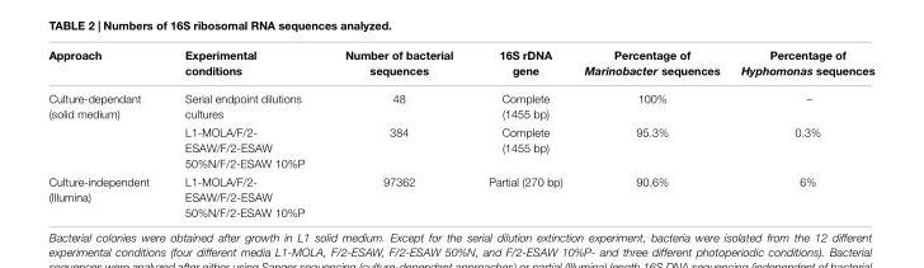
<table><thead><tr><td>Approach</td><td>Experimental conditions</td><td>Number of bacterial sequences</td><td>16S rDNA gene</td><td>Percentage of Marinobacter sequences</td><td>Percentage of Hyphomonas sequences</td></tr></thead><tbody><tr><td rowspan="2">Culture-dependant (solid medium)</td><td>Serial endpoint dilutions cultures</td><td>48</td><td>Complete (1455 bp)</td><td>100%</td><td>–</td></tr><tr><td>L1-MOLA/F/2- ESAW/F/2-ESAW 50%N/F/2-ESAW 10%P</td><td>384</td><td>Complete (1455 bp)</td><td>95.3%</td><td>0.3%</td></tr><tr><td>Culture-independent (Illumina)</td><td>L1-MOLA/F/2- ESAW/F/2-ESAW 50%N/F/2-ESAW 10%P</td><td>97362</td><td>Partial (270 bp)</td><td>90.6%</td><td>6%</td></tr></tbody></table>